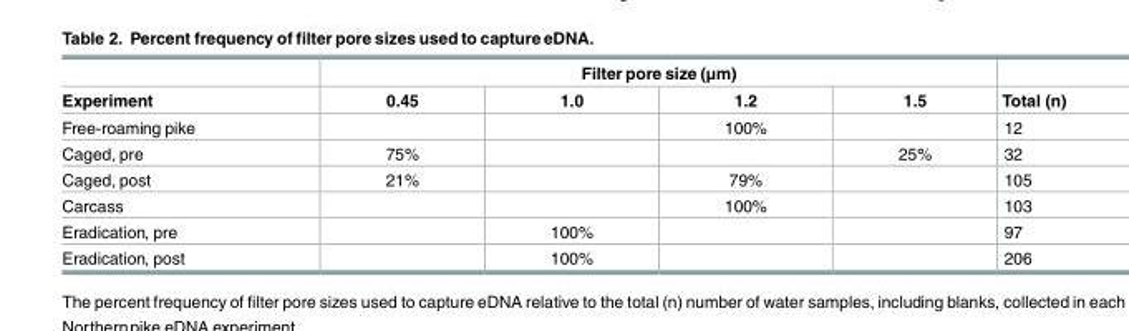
<table><thead><tr><td rowspan="2">Experiment</td><td colspan="4">Filter pore size (μm)</td><td rowspan="2">Total (n)</td></tr><tr><td>0.45</td><td>1.0</td><td>1.2</td><td>1.5</td></tr></thead><tbody><tr><td>Free-roaming pike</td><td></td><td></td><td>100%</td><td></td><td>12</td></tr><tr><td>Caged, pre</td><td>75%</td><td></td><td></td><td>25%</td><td>32</td></tr><tr><td>Caged, post</td><td>21%</td><td></td><td>79%</td><td></td><td>105</td></tr><tr><td>Carcass</td><td></td><td></td><td>100%</td><td></td><td>103</td></tr><tr><td>Eradication, pre</td><td></td><td>100%</td><td></td><td></td><td>97</td></tr><tr><td>Eradication, post</td><td></td><td>100%</td><td></td><td></td><td>206</td></tr></tbody></table>